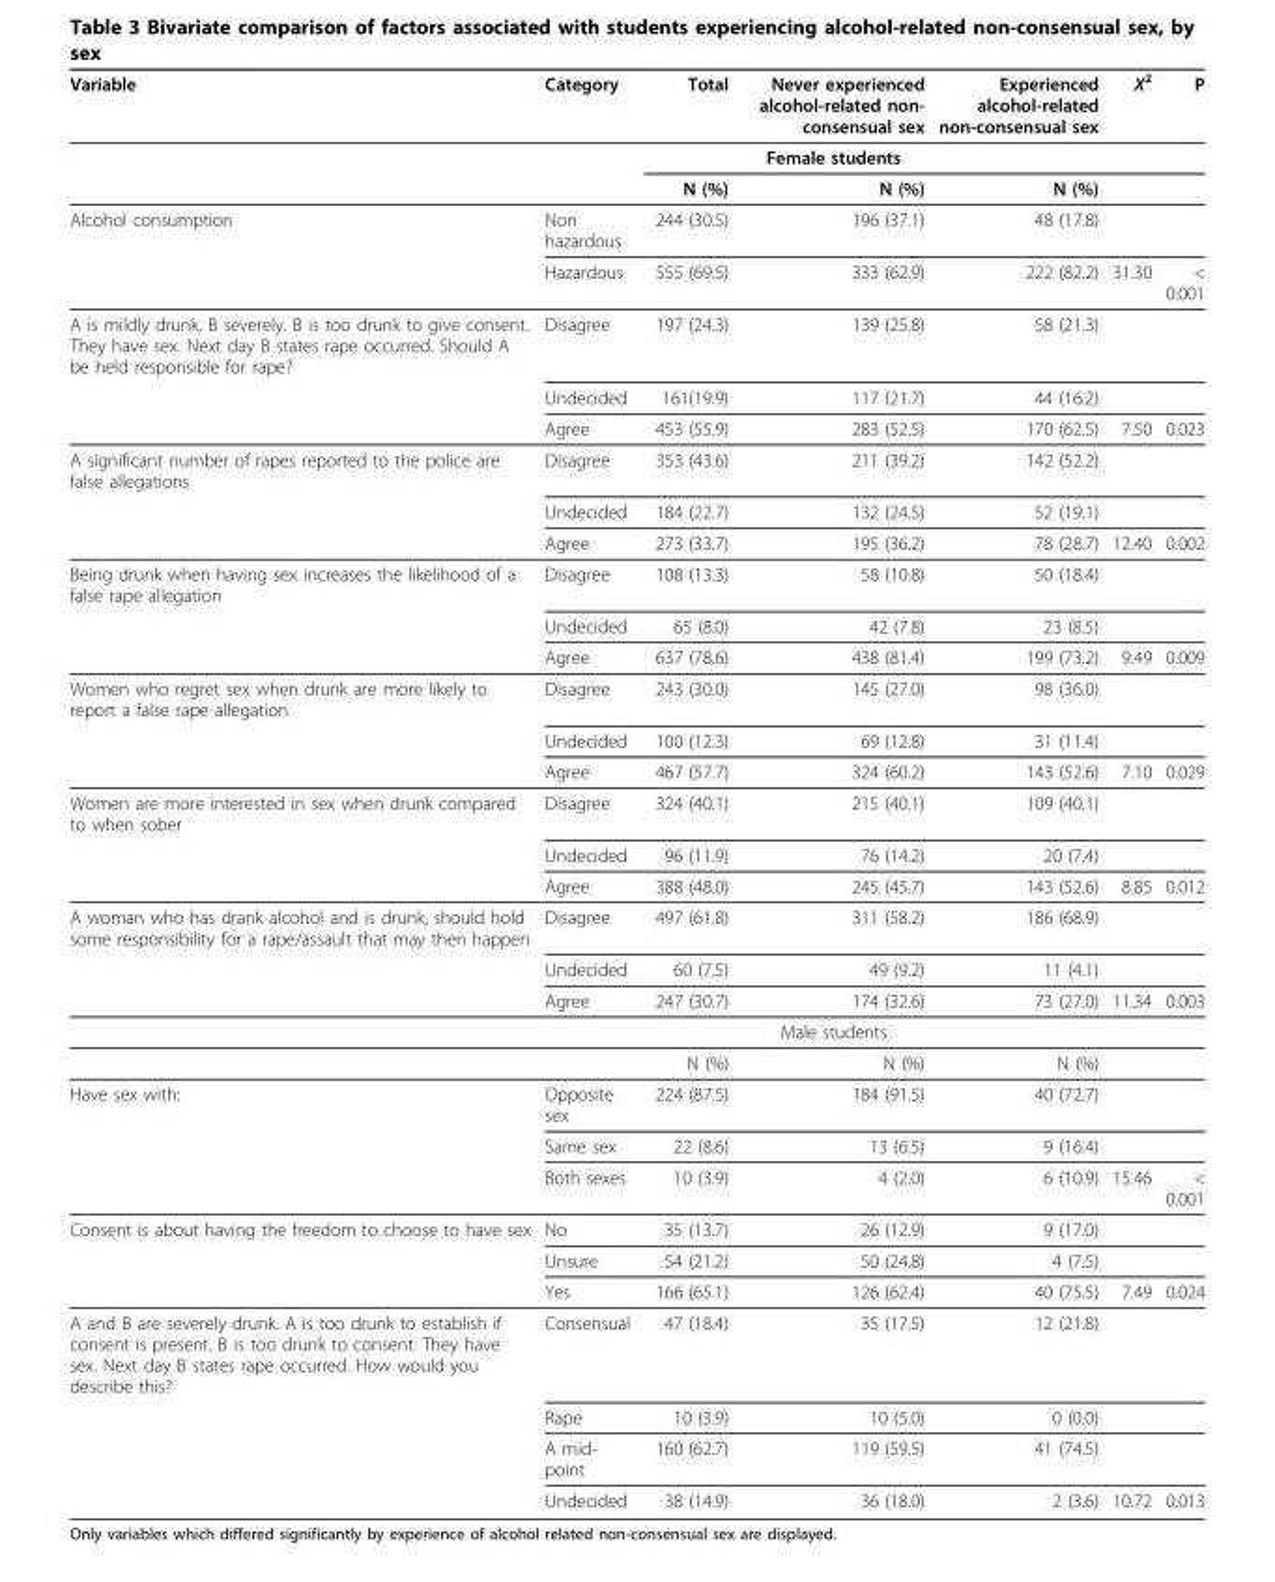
<table><thead><tr><td>Variable</td><td>Category</td><td>Total</td><td>Never experienced alcohol-related non- consensual sex</td><td>Experienced alcohol-related non-consensual sex</td><td>X<sup>2</sup></td><td>P</td></tr></thead><tbody><tr><td></td><td></td><td></td><td>Female students</td><td></td><td></td><td></td></tr><tr><td></td><td></td><td>N (%)</td><td>N (%)</td><td>N (%)</td><td></td><td></td></tr><tr><td rowspan="2">Alcohol consumption</td><td>Non hazardous</td><td>244 (30.5)</td><td>196 (37.1)</td><td>48 (17.8)</td><td></td><td></td></tr><tr><td>Hazardous</td><td>555 (69.5)</td><td>333 (62.9)</td><td>222 (82.2)</td><td>31.30</td><td>&lt; 0.001</td></tr><tr><td rowspan="3">A is mildly drunk, B severely. B is too drunk to give consent. They have sex. Next day B states rape occurred. Should A be held responsible for rape?</td><td>Disagree</td><td>197 (24.3)</td><td>139 (25.8)</td><td>58 (21.3)</td><td></td><td></td></tr><tr><td>Undecided</td><td>161(19.9)</td><td>117 (21.7)</td><td>44 (16.2)</td><td></td><td></td></tr><tr><td>Agree</td><td>453 (55.9)</td><td>283 (52.5)</td><td>170 (62.5)</td><td>7.50</td><td>0.023</td></tr><tr><td rowspan="3">A significant number of rapes reported to the police are false allegations</td><td>Disagree</td><td>353 (43.6)</td><td>211 (39.2)</td><td>142 (52.2)</td><td></td><td></td></tr><tr><td>Undecided</td><td>184 (22.7)</td><td>132 (24.5)</td><td>52 (19.1)</td><td></td><td></td></tr><tr><td>Agree</td><td>273 (33.7)</td><td>195 (36.2)</td><td>78 (28.7)</td><td>12.40</td><td>0.002</td></tr><tr><td rowspan="3">Being drunk when having sex increases the likelihood of a false rape allegation</td><td>Disagree</td><td>108 (13.3)</td><td>58 (10.8)</td><td>50 (18.4)</td><td></td><td></td></tr><tr><td>Undecided</td><td>65 (8.0)</td><td>42 (7.8)</td><td>23 (8.5)</td><td></td><td></td></tr><tr><td>Agree</td><td>637 (78.6)</td><td>438 (81.4)</td><td>199 (73.2)</td><td>9.49</td><td>0.009</td></tr><tr><td rowspan="3">Women who regret sex when drunk are more likely to report a false rape allegation</td><td>Disagree</td><td>243 (30.0)</td><td>145 (27.0)</td><td>98 (36.0)</td><td></td><td></td></tr><tr><td>Undecided</td><td>100 (12.3)</td><td>69 (12.8)</td><td>31 (11.4)</td><td></td><td></td></tr><tr><td>Agree</td><td>467 (57.7)</td><td>324 (60.2)</td><td>143 (52.6)</td><td>7.10</td><td>0.029</td></tr><tr><td rowspan="3">Women are more interested in sex when drunk compared to when sober</td><td>Disagree</td><td>324 (40.1)</td><td>215 (40.1)</td><td>109 (40.1)</td><td></td><td></td></tr><tr><td>Undecided</td><td>96 (11.9)</td><td>76 (14.2)</td><td>20 (7.4)</td><td></td><td></td></tr><tr><td>Agree</td><td>388 (48.0)</td><td>245 (45.7)</td><td>143 (52.6)</td><td>8.85</td><td>0.012</td></tr><tr><td rowspan="5">A woman who has drank alcohol and is drunk, should hold some responsibility for a rape/assault that may then happen</td><td>Disagree</td><td>497 (61.8)</td><td>311 (58.2)</td><td>186 (68.9)</td><td></td><td></td></tr><tr><td>Undecided</td><td>60 (7.5)</td><td>49 (9.2)</td><td>11 (4.1)</td><td></td><td></td></tr><tr><td>Agree</td><td>247 (30.7)</td><td>174 (32.6)</td><td>73 (27.0)</td><td>11.34</td><td>0.003</td></tr><tr><td></td><td></td><td>Male students</td><td></td><td></td><td></td></tr><tr><td></td><td>N (%)</td><td>N (%)</td><td>N (%)</td><td></td><td></td></tr><tr><td rowspan="3">Have sex with:</td><td>Opposite sex</td><td>224 (87.5)</td><td>184 (91.5)</td><td>40 (72.7)</td><td></td><td></td></tr><tr><td>Same sex</td><td>22 (8.6)</td><td>13 (6.5)</td><td>9 (16.4)</td><td></td><td></td></tr><tr><td>Both sexes</td><td>10 (3.9)</td><td>4 (2.0)</td><td>6 (10.9)</td><td>15.46</td><td>&lt; 0.001</td></tr><tr><td rowspan="3">Consent is about having the freedom to choose to have sex</td><td>No</td><td>35 (13.7)</td><td>26 (12.9)</td><td>9 (17.0)</td><td></td><td></td></tr><tr><td>Unsure</td><td>54 (21.2)</td><td>50 (24.8)</td><td>4 (7.5)</td><td></td><td></td></tr><tr><td>Yes</td><td>166 (65.1)</td><td>126 (62.4)</td><td>40 (75.5)</td><td>7.49</td><td>0.024</td></tr><tr><td rowspan="4">A and B are severely drunk. A is too drunk to establish if consent is present. B is too drunk to consent. They have sex. Next day B states rape occurred. How would you describe this?</td><td>Consensual</td><td>47 (18.4)</td><td>35 (17.5)</td><td>12 (21.8)</td><td></td><td></td></tr><tr><td>Rape</td><td>10 (3.9)</td><td>10 (5.0)</td><td>0 (0.0)</td><td></td><td></td></tr><tr><td>A mid- point</td><td>160 (62.7)</td><td>119 (59.5)</td><td>41 (74.5)</td><td></td><td></td></tr><tr><td>Undecided</td><td>38 (14.9)</td><td>36 (18.0)</td><td>2 (3.6)</td><td>10.72</td><td>0.013</td></tr></tbody></table>